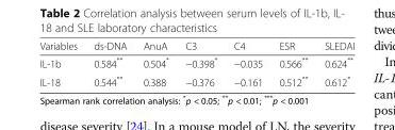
<table><thead><tr><td>Variables</td><td>ds-DNA</td><td>AnuA</td><td>C3</td><td>C4</td><td>ESR</td><td>SLEDAI</td></tr></thead><tbody><tr><td>IL-1b</td><td>0.584**</td><td>0.504*</td><td>−0.398*</td><td>−0.035</td><td>0.566**</td><td>0.624**</td></tr><tr><td>IL-18</td><td>0.544**</td><td>0.388</td><td>−0.376</td><td>−0.161</td><td>0.512**</td><td>0.612*</td></tr></tbody></table>